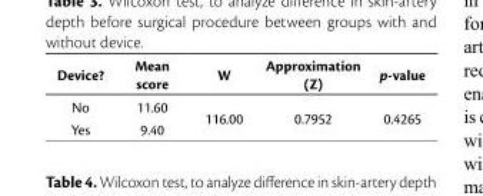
<table><thead><tr><td>Device?</td><td>Mean score</td><td>W</td><td>Approximation (Z)</td><td>p-value</td></tr></thead><tbody><tr><td>No</td><td>11.60</td><td rowspan="2">116.00</td><td rowspan="2">0.7952</td><td rowspan="2">0.4265</td></tr><tr><td>Yes</td><td>9.40</td></tr></tbody></table>